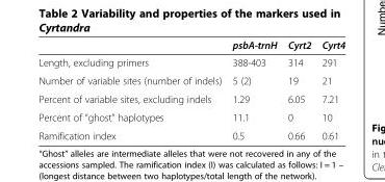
<table><thead><tr><td></td><td>psbA-trnH</td><td>Cyrt2</td><td>Cyrt4</td></tr></thead><tbody><tr><td>Length, excluding primers</td><td>388-403</td><td>314</td><td>291</td></tr><tr><td>Number of variable sites (number of indels)</td><td>5 (2)</td><td>19</td><td>21</td></tr><tr><td>Percent of variable sites, excluding indels</td><td>1.29</td><td>6.05</td><td>7.21</td></tr><tr><td>Percent of “ghost” haplotypes</td><td>11.1</td><td>0</td><td>10</td></tr><tr><td>Ramification index</td><td>0.5</td><td>0.66</td><td>0.61</td></tr></tbody></table>